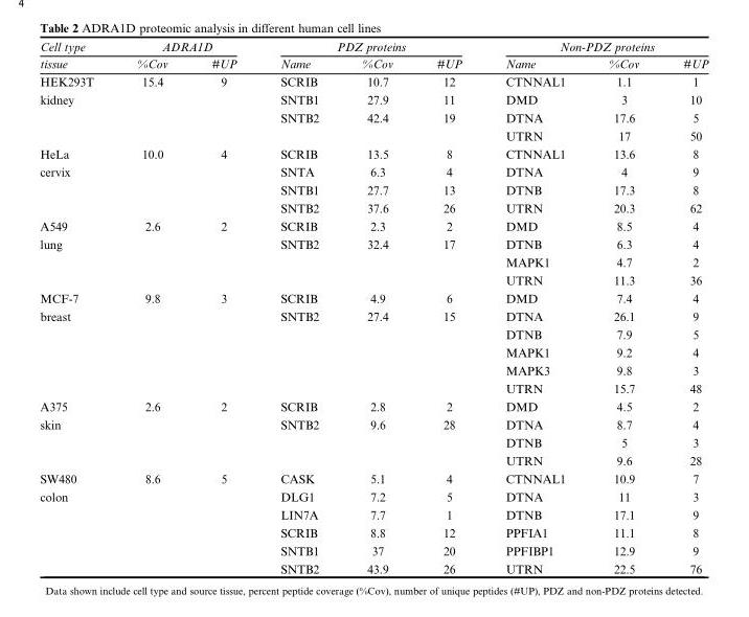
<table><thead><tr><td rowspan="2">Cell type tissue</td><td colspan="2">ADRA1D</td><td colspan="3">PDZ proteins</td><td colspan="3">Non-PDZ proteins</td></tr><tr><td>%Cov</td><td>#UP</td><td>Name</td><td>%Cov</td><td>#UP</td><td>Name</td><td>%Cov</td><td>#UP</td></tr></thead><tbody><tr><td>HEK293T</td><td>15.4</td><td>9</td><td>SCRIB</td><td>10.7</td><td>12</td><td>CTNNAL1</td><td>1.1</td><td>1</td></tr><tr><td rowspan="3">kidney</td><td></td><td></td><td>SNTB1</td><td>27.9</td><td>11</td><td>DMD</td><td>3</td><td>10</td></tr><tr><td></td><td></td><td>SNTB2</td><td>42.4</td><td>19</td><td>DTNA</td><td>17.6</td><td>5</td></tr><tr><td></td><td></td><td></td><td></td><td></td><td>UTRN</td><td>17</td><td>50</td></tr><tr><td>HeLa</td><td>10.0</td><td>4</td><td>SCRIB</td><td>13.5</td><td>8</td><td>CTNNAL1</td><td>13.6</td><td>8</td></tr><tr><td rowspan="3">cervix</td><td></td><td></td><td>SNTA</td><td>6.3</td><td>4</td><td>DTNA</td><td>4</td><td>9</td></tr><tr><td></td><td></td><td>SNTB1</td><td>27.7</td><td>13</td><td>DTNB</td><td>17.3</td><td>8</td></tr><tr><td></td><td></td><td>SNTB2</td><td>37.6</td><td>26</td><td>UTRN</td><td>20.3</td><td>62</td></tr><tr><td>A549</td><td>2.6</td><td>2</td><td>SCRIB</td><td>2.3</td><td>2</td><td>DMD</td><td>8.5</td><td>4</td></tr><tr><td rowspan="3">lung</td><td></td><td></td><td>SNTB2</td><td>32.4</td><td>17</td><td>DTNB</td><td>6.3</td><td>4</td></tr><tr><td></td><td></td><td></td><td></td><td></td><td>MAPK1</td><td>4.7</td><td>2</td></tr><tr><td></td><td></td><td></td><td></td><td></td><td>UTRN</td><td>11.3</td><td>36</td></tr><tr><td>MCF-7</td><td>9.8</td><td>3</td><td>SCRIB</td><td>4.9</td><td>6</td><td>DMD</td><td>7.4</td><td>4</td></tr><tr><td rowspan="5">breast</td><td></td><td></td><td>SNTB2</td><td>27.4</td><td>15</td><td>DTNA</td><td>26.1</td><td>9</td></tr><tr><td></td><td></td><td></td><td></td><td></td><td>DTNB</td><td>7.9</td><td>5</td></tr><tr><td></td><td></td><td></td><td></td><td></td><td>MAPK1</td><td>9.2</td><td>4</td></tr><tr><td></td><td></td><td></td><td></td><td></td><td>MAPK3</td><td>9.8</td><td>3</td></tr><tr><td></td><td></td><td></td><td></td><td></td><td>UTRN</td><td>15.7</td><td>48</td></tr><tr><td>A375</td><td>2.6</td><td>2</td><td>SCRIB</td><td>2.8</td><td>2</td><td>DMD</td><td>4.5</td><td>2</td></tr><tr><td rowspan="3">skin</td><td></td><td></td><td>SNTB2</td><td>9.6</td><td>28</td><td>DTNA</td><td>8.7</td><td>4</td></tr><tr><td></td><td></td><td></td><td></td><td></td><td>DTNB</td><td>5</td><td>3</td></tr><tr><td></td><td></td><td></td><td></td><td></td><td>UTRN</td><td>9.6</td><td>28</td></tr><tr><td>SW480</td><td>8.6</td><td>5</td><td>CASK</td><td>5.1</td><td>4</td><td>CTNNAL1</td><td>10.9</td><td>7</td></tr><tr><td rowspan="5">colon</td><td></td><td></td><td>DLG1</td><td>7.2</td><td>5</td><td>DTNA</td><td>11</td><td>3</td></tr><tr><td></td><td></td><td>LIN7A</td><td>7.7</td><td>1</td><td>DTNB</td><td>17.1</td><td>9</td></tr><tr><td></td><td></td><td>SCRIB</td><td>8.8</td><td>12</td><td>PPFIA1</td><td>11.1</td><td>8</td></tr><tr><td></td><td></td><td>SNTB1</td><td>37</td><td>20</td><td>PPFIBP1</td><td>12.9</td><td>9</td></tr><tr><td></td><td></td><td>SNTB2</td><td>43.9</td><td>26</td><td>UTRN</td><td>22.5</td><td>76</td></tr></tbody></table>